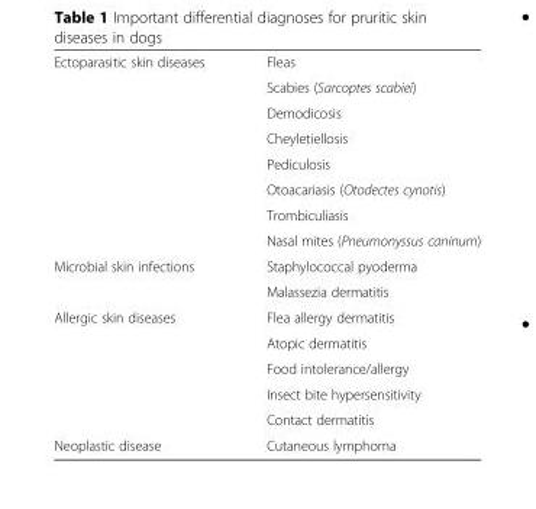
<table><tbody><tr><td rowspan="8">Ectoparasitic skin diseases</td><td>Fleas</td></tr><tr><td>Scabies (Sarcoptes scabiei)</td></tr><tr><td>Demodicosis</td></tr><tr><td>Cheyletiellosis</td></tr><tr><td>Pediculosis</td></tr><tr><td>Otoacariasis (Otodectes cynotis)</td></tr><tr><td>Trombiculiasis</td></tr><tr><td>Nasal mites (Pneumonyssus caninum)</td></tr><tr><td rowspan="2">Microbial skin infections</td><td>Staphylococcal pyoderma</td></tr><tr><td>Malassezia dermatitis</td></tr><tr><td rowspan="5">Allergic skin diseases</td><td>Flea allergy dermatitis</td></tr><tr><td>Atopic dermatitis</td></tr><tr><td>Food intolerance/allergy</td></tr><tr><td>Insect bite hypersensitivity</td></tr><tr><td>Contact dermatitis</td></tr><tr><td>Neoplastic disease</td><td>Cutaneous lymphoma</td></tr></tbody></table>